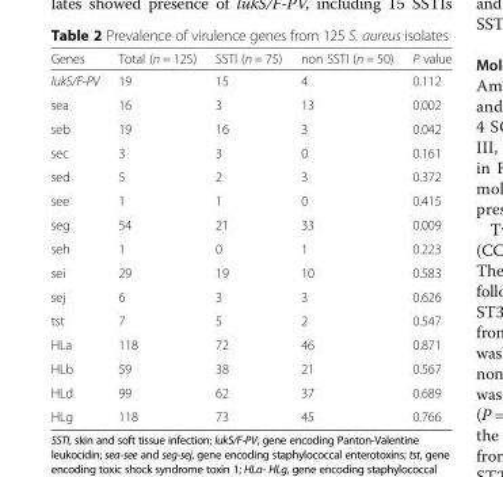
<table><thead><tr><td>Genes</td><td>Total (n = 125)</td><td>SSTI (n = 75)</td><td>non SSTI (n = 50)</td><td>P value</td></tr></thead><tbody><tr><td>lukS/F-PV</td><td>19</td><td>15</td><td>4</td><td>0.112</td></tr><tr><td>sea</td><td>16</td><td>3</td><td>13</td><td>0.002</td></tr><tr><td>seb</td><td>19</td><td>16</td><td>3</td><td>0.042</td></tr><tr><td>sec</td><td>3</td><td>3</td><td>0</td><td>0.161</td></tr><tr><td>sed</td><td>5</td><td>2</td><td>3</td><td>0.372</td></tr><tr><td>see</td><td>1</td><td>1</td><td>0</td><td>0.415</td></tr><tr><td>seg</td><td>54</td><td>21</td><td>33</td><td>0.009</td></tr><tr><td>seh</td><td>1</td><td>0</td><td>1</td><td>0.223</td></tr><tr><td>sei</td><td>29</td><td>19</td><td>10</td><td>0.583</td></tr><tr><td>sej</td><td>6</td><td>3</td><td>3</td><td>0.626</td></tr><tr><td>tst</td><td>7</td><td>5</td><td>2</td><td>0.547</td></tr><tr><td>HLa</td><td>118</td><td>72</td><td>46</td><td>0.871</td></tr><tr><td>HLb</td><td>59</td><td>38</td><td>21</td><td>0.567</td></tr><tr><td>HLd</td><td>99</td><td>62</td><td>37</td><td>0.689</td></tr><tr><td>HLg</td><td>118</td><td>73</td><td>45</td><td>0.766</td></tr></tbody></table>